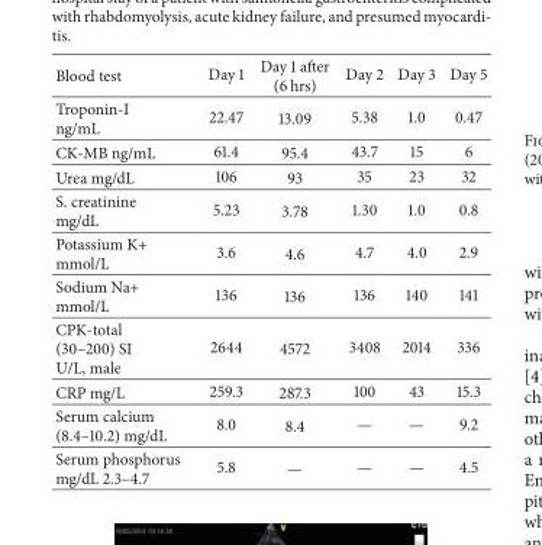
<table><thead><tr><td>Blood test</td><td>Day 1</td><td>Day 1 after (6 hrs)</td><td>Day 2</td><td>Day 3</td><td>Day 5</td></tr></thead><tbody><tr><td>Troponin-I ng/mL</td><td>22.47</td><td>13.09</td><td>5.38</td><td>1.0</td><td>0.47</td></tr><tr><td>CK-MB ng/mL</td><td>61.4</td><td>95.4</td><td>43.7</td><td>15</td><td>6</td></tr><tr><td>Urea mg/dL</td><td>106</td><td>93</td><td>35</td><td>23</td><td>32</td></tr><tr><td>S. creatinine mg/dL</td><td>5.23</td><td>3.78</td><td>1.30</td><td>1.0</td><td>0.8</td></tr><tr><td>Potassium K+ mmol/L</td><td>3.6</td><td>4.6</td><td>4.7</td><td>4.0</td><td>2.9</td></tr><tr><td>Sodium Na+ mmol/L</td><td>136</td><td>136</td><td>136</td><td>140</td><td>141</td></tr><tr><td>CPK-total (30–200) SI U/L, male</td><td>2644</td><td>4572</td><td>3408</td><td>2014</td><td>336</td></tr><tr><td>CRP mg/L</td><td>259.3</td><td>287.3</td><td>100</td><td>43</td><td>15.3</td></tr><tr><td>Serum calcium (8.4–10.2) mg/dL</td><td>8.0</td><td>8.4</td><td>—</td><td>—</td><td>9.2</td></tr><tr><td>Serum phosphorus mg/dL 2.3–4.7</td><td>5.8</td><td>—</td><td>—</td><td>—</td><td>4.5</td></tr></tbody></table>